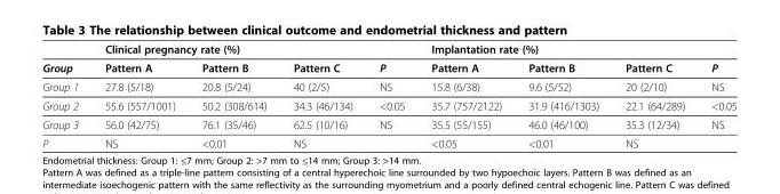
<table><thead><tr><td rowspan="2">Group</td><td colspan="4">Clinical pregnancy rate (%)</td><td colspan="4">Implantation rate (%)</td></tr><tr><td>Pattern A</td><td>Pattern B</td><td>Pattern C</td><td>P</td><td>Pattern A</td><td>Pattern B</td><td>Pattern C</td><td>P</td></tr></thead><tbody><tr><td>Group 1</td><td>27.8 (5/18)</td><td>20.8 (5/24)</td><td>40 (2/5)</td><td>NS</td><td>15.8 (6/38)</td><td>9.6 (5/52)</td><td>20 (2/10)</td><td>NS</td></tr><tr><td>Group 2</td><td>55.6 (557/1001)</td><td>50.2 (308/614)</td><td>34.3 (46/134)</td><td>&lt;0.05</td><td>35.7 (757/2122)</td><td>31.9 (416/1303)</td><td>22.1 (64/289)</td><td>&lt;0.05</td></tr><tr><td>Group 3</td><td>56.0 (42/75)</td><td>76.1 (35/46)</td><td>62.5 (10/16)</td><td>NS</td><td>35.5 (55/155)</td><td>46.0 (46/100)</td><td>35.3 (12/34)</td><td>NS</td></tr><tr><td>P</td><td>NS</td><td>&lt;0.01</td><td>NS</td><td></td><td>&lt;0.05</td><td>&lt;0.01</td><td>NS</td><td></td></tr></tbody></table>